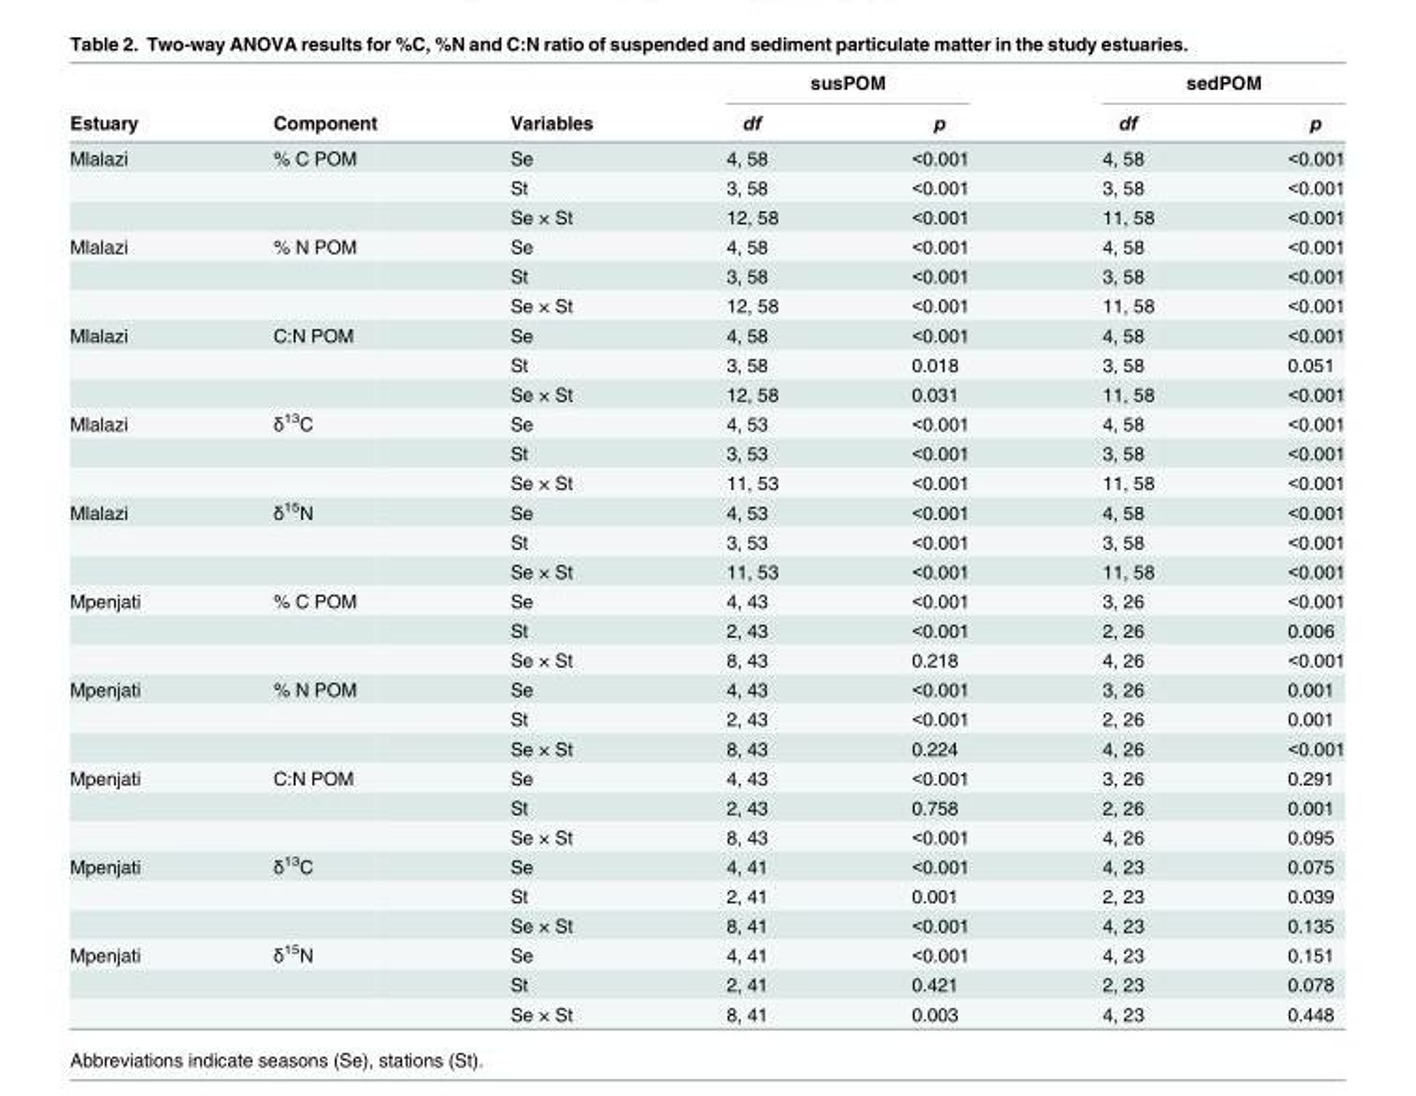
<table><thead><tr><td rowspan="2">Estuary</td><td rowspan="2">Component</td><td rowspan="2">Variables</td><td colspan="2">susPOM</td><td colspan="2">sedPOM</td></tr><tr><td>df</td><td>p</td><td>df</td><td>p</td></tr></thead><tbody><tr><td rowspan="3">Mlalazi</td><td>% C POM</td><td>Se</td><td>4, 58</td><td>&lt;0.001</td><td>4, 58</td><td>&lt;0.001</td></tr><tr><td></td><td>St</td><td>3, 58</td><td>&lt;0.001</td><td>3, 58</td><td>&lt;0.001</td></tr><tr><td></td><td>Se × St</td><td>12, 58</td><td>&lt;0.001</td><td>11, 58</td><td>&lt;0.001</td></tr><tr><td rowspan="3">Mlalazi</td><td>% N POM</td><td>Se</td><td>4, 58</td><td>&lt;0.001</td><td>4, 58</td><td>&lt;0.001</td></tr><tr><td></td><td>St</td><td>3, 58</td><td>&lt;0.001</td><td>3, 58</td><td>&lt;0.001</td></tr><tr><td></td><td>Se × St</td><td>12, 58</td><td>&lt;0.001</td><td>11, 58</td><td>&lt;0.001</td></tr><tr><td rowspan="3">Mlalazi</td><td>C:N POM</td><td>Se</td><td>4, 58</td><td>&lt;0.001</td><td>4, 58</td><td>&lt;0.001</td></tr><tr><td></td><td>St</td><td>3, 58</td><td>0.018</td><td>3, 58</td><td>0.051</td></tr><tr><td></td><td>Se × St</td><td>12, 58</td><td>0.031</td><td>11, 58</td><td>&lt;0.001</td></tr><tr><td rowspan="3">Mlalazi</td><td>δ<sup>13</sup>C</td><td>Se</td><td>4, 53</td><td>&lt;0.001</td><td>4, 58</td><td>&lt;0.001</td></tr><tr><td></td><td>St</td><td>3, 53</td><td>&lt;0.001</td><td>3, 58</td><td>&lt;0.001</td></tr><tr><td></td><td>Se × St</td><td>11, 53</td><td>&lt;0.001</td><td>11, 58</td><td>&lt;0.001</td></tr><tr><td rowspan="3">Mlalazi</td><td>δ<sup>15</sup>N</td><td>Se</td><td>4, 53</td><td>&lt;0.001</td><td>4, 58</td><td>&lt;0.001</td></tr><tr><td></td><td>St</td><td>3, 53</td><td>&lt;0.001</td><td>3, 58</td><td>&lt;0.001</td></tr><tr><td></td><td>Se × St</td><td>11, 53</td><td>&lt;0.001</td><td>11, 58</td><td>&lt;0.001</td></tr><tr><td rowspan="3">Mpenjati</td><td>% C POM</td><td>Se</td><td>4, 43</td><td>&lt;0.001</td><td>3, 26</td><td>&lt;0.001</td></tr><tr><td></td><td>St</td><td>2, 43</td><td>&lt;0.001</td><td>2, 26</td><td>0.006</td></tr><tr><td></td><td>Se × St</td><td>8, 43</td><td>0.218</td><td>4, 26</td><td>&lt;0.001</td></tr><tr><td rowspan="3">Mpenjati</td><td>% N POM</td><td>Se</td><td>4, 43</td><td>&lt;0.001</td><td>3, 26</td><td>0.001</td></tr><tr><td></td><td>St</td><td>2, 43</td><td>&lt;0.001</td><td>2, 26</td><td>0.001</td></tr><tr><td></td><td>Se × St</td><td>8, 43</td><td>0.224</td><td>4, 26</td><td>&lt;0.001</td></tr><tr><td rowspan="3">Mpenjati</td><td>C:N POM</td><td>Se</td><td>4, 43</td><td>&lt;0.001</td><td>3, 26</td><td>0.291</td></tr><tr><td></td><td>St</td><td>2, 43</td><td>0.758</td><td>2, 26</td><td>0.001</td></tr><tr><td></td><td>Se × St</td><td>8, 43</td><td>&lt;0.001</td><td>4, 26</td><td>0.095</td></tr><tr><td rowspan="3">Mpenjati</td><td>δ<sup>13</sup>C</td><td>Se</td><td>4, 41</td><td>&lt;0.001</td><td>4, 23</td><td>0.075</td></tr><tr><td></td><td>St</td><td>2, 41</td><td>0.001</td><td>2, 23</td><td>0.039</td></tr><tr><td></td><td>Se × St</td><td>8, 41</td><td>&lt;0.001</td><td>4, 23</td><td>0.135</td></tr><tr><td rowspan="3">Mpenjati</td><td>δ<sup>15</sup>N</td><td>Se</td><td>4, 41</td><td>&lt;0.001</td><td>4, 23</td><td>0.151</td></tr><tr><td></td><td>St</td><td>2, 41</td><td>0.421</td><td>2, 23</td><td>0.078</td></tr><tr><td></td><td>Se × St</td><td>8, 41</td><td>0.003</td><td>4, 23</td><td>0.448</td></tr></tbody></table>